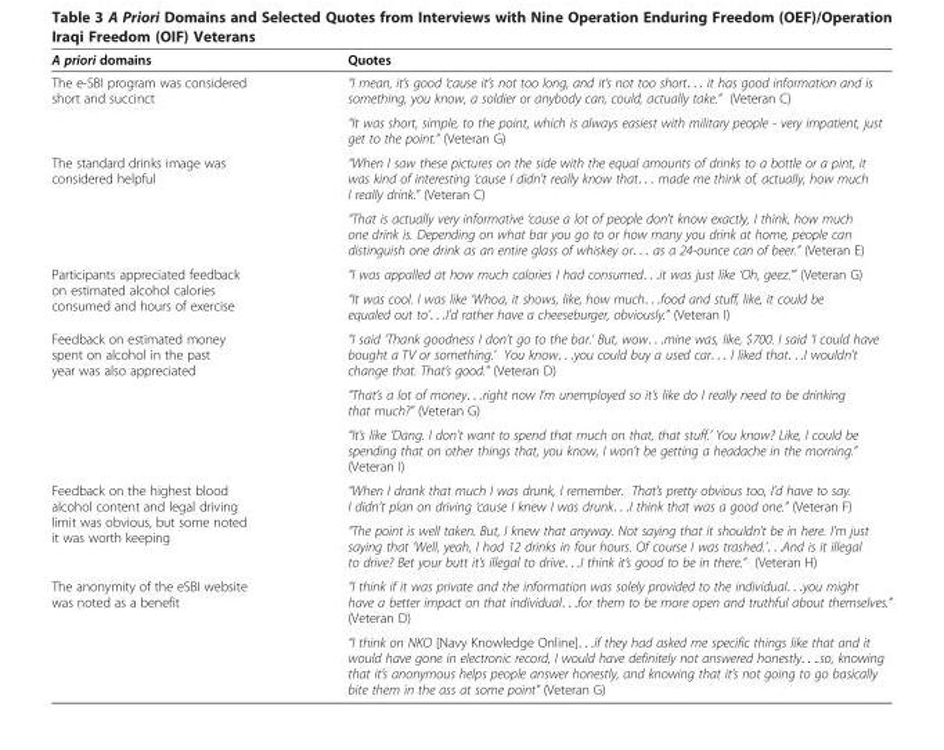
<table><thead><tr><td>A priori domains</td><td>Quotes</td></tr></thead><tbody><tr><td rowspan="2">The e-SBI program was considered short and succinct</td><td>“I mean, it’s good ‘cause it’s not too long, and it’s not too short. . . it has good information and is something, you know, a soldier or anybody can, could, actually take.” (Veteran C)</td></tr><tr><td>“It was short, simple, to the point, which is always easiest with military people - very impatient, just get to the point.” (Veteran G)</td></tr><tr><td rowspan="2">The standard drinks image was considered helpful</td><td>“When I saw these pictures on the side with the equal amounts of drinks to a bottle or a pint, it was kind of interesting ‘cause I didn’t really know that. . . made me think of, actually, how much I really drink.” (Veteran C)</td></tr><tr><td>“That is actually very informative ‘cause a lot of people don’t know exactly, I think, how much one drink is. Depending on what bar you go to or how many you drink at home, people can distinguish one drink as an entire glass of whiskey or. . . as a 24-ounce can of beer.” (Veteran E)</td></tr><tr><td rowspan="2">Participants appreciated feedback on estimated alcohol calories consumed and hours of exercise</td><td>“I was appalled at how much calories I had consumed. . .it was just like ‘Oh, geez.’” (Veteran G)</td></tr><tr><td>“It was cool. I was like ‘Whoa, it shows, like, how much. . .food and stuff, like, it could be equaled out to’. . .I’d rather have a cheeseburger, obviously.” (Veteran I)</td></tr><tr><td rowspan="3">Feedback on estimated money spent on alcohol in the past year was also appreciated</td><td>“I said ‘Thank goodness I don’t go to the bar.’ But, wow. . .mine was, like, $700. I said ‘I could have bought a TV or something.’ You know. . .you could buy a used car. . . I liked that. . .I wouldn’t change that. That’s good.” (Veteran D)</td></tr><tr><td>“That’s a lot of money. . .right now I’m unemployed so it’s like do I really need to be drinking that much?” (Veteran G)</td></tr><tr><td>“It’s like ‘Dang. I don’t want to spend that much on that, that stuff.’ You know? Like, I could be spending that on other things that, you know, I won’t be getting a headache in the morning.” (Veteran I)</td></tr><tr><td rowspan="2">Feedback on the highest blood alcohol content and legal driving limit was obvious, but some noted it was worth keeping</td><td>“When I drank that much I was drunk, I remember. That’s pretty obvious too, I’d have to say. I didn’t plan on driving ‘cause I knew I was drunk. . .I think that was a good one.” (Veteran F)</td></tr><tr><td>“The point is well taken. But, I knew that anyway. Not saying that it shouldn’t be in here. I’m just saying that ‘Well, yeah, I had 12 drinks in four hours. Of course I was trashed.’. . .And is it illegal to drive? Bet your butt it’s illegal to drive. . .I think it’s good to be in there.” (Veteran H)</td></tr><tr><td rowspan="2">The anonymity of the eSBI website was noted as a benefit</td><td>“I think if it was private and the information was solely provided to the individual. . .you might have a better impact on that individual. . .for them to be more open and truthful about themselves.” (Veteran D)</td></tr><tr><td>“I think on NKO [Navy Knowledge Online]. . .if they had asked me specific things like that and it would have gone in electronic record, I would have definitely not answered honestly. . ..so, knowing that it’s anonymous helps people answer honestly, and knowing that it’s not going to go basically bite them in the ass at some point” (Veteran G)</td></tr></tbody></table>